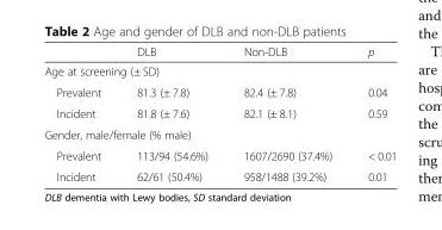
<table><thead><tr><td></td><td>DLB</td><td>Non-DLB</td><td>p</td></tr></thead><tbody><tr><td colspan="4">Age at screening (± SD)</td></tr><tr><td>Prevalent</td><td>81.3 (± 7.8)</td><td>82.4 (± 7.8)</td><td>0.04</td></tr><tr><td>Incident</td><td>81.8 (± 7.6)</td><td>82.1 (± 8.1)</td><td>0.59</td></tr><tr><td colspan="4">Gender, male/female (% male)</td></tr><tr><td>Prevalent</td><td>113/94 (54.6%)</td><td>1607/2690 (37.4%)</td><td>&lt; 0.01</td></tr><tr><td>Incident</td><td>62/61 (50.4%)</td><td>958/1488 (39.2%)</td><td>0.01</td></tr></tbody></table>